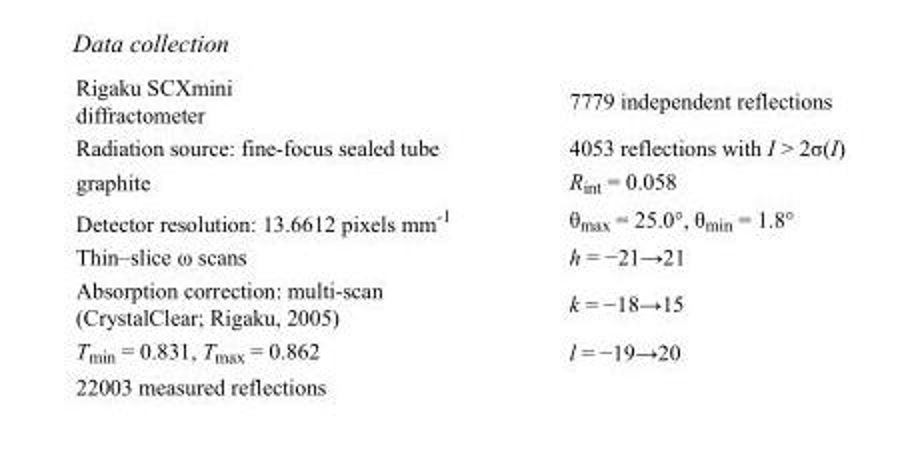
<table><tbody><tr><td>Rigaku SCXmini diffractometer</td><td>7779 independent reflections</td></tr><tr><td>Radiation source: fine-focus sealed tube</td><td>4053 reflections with I &gt; 2σ(I)</td></tr><tr><td>graphite</td><td>R<sub>int</sub> = 0.058</td></tr><tr><td>Detector resolution: 13.6612 pixels mm<sup>-1</sup></td><td>θ<sub>max</sub> = 25.0°, θ<sub>min</sub> = 1.8°</td></tr><tr><td>Thin–slice ω scans</td><td>h = −21→21</td></tr><tr><td>Absorption correction: multi-scan (CrystalClear; Rigaku, 2005)</td><td>k = −18→15</td></tr><tr><td>T<sub>min</sub> = 0.831, T<sub>max</sub> = 0.862</td><td>l = −19→20</td></tr><tr><td>22003 measured reflections</td><td></td></tr></tbody></table>